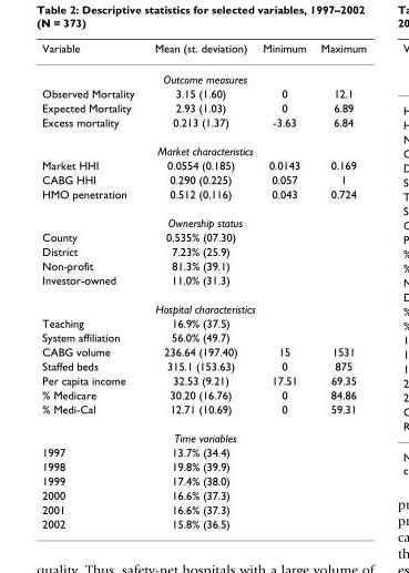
<table><thead><tr><td>Variable</td><td>Mean (st. deviation)</td><td>Minimum</td><td>Maximum</td></tr></thead><tbody><tr><td colspan="4">Outcome measures</td></tr><tr><td>Observed Mortality</td><td>3.15 (1.60)</td><td>0</td><td>12.1</td></tr><tr><td>Expected Mortality</td><td>2.93 (1.03)</td><td>0</td><td>6.89</td></tr><tr><td>Excess mortality</td><td>0.213 (1.37)</td><td>-3.63</td><td>6.84</td></tr><tr><td colspan="4">Market characteristics</td></tr><tr><td>Market HHI</td><td>0.0554 (0.185)</td><td>0.0143</td><td>0.169</td></tr><tr><td>CABG HHI</td><td>0.290 (0.225)</td><td>0.057</td><td>1</td></tr><tr><td>HMO penetration</td><td>0.512 (0.116)</td><td>0.043</td><td>0.724</td></tr><tr><td colspan="4">Ownership status</td></tr><tr><td>County</td><td>0.535% (07.30)</td><td></td><td></td></tr><tr><td>District</td><td>7.23% (25.9)</td><td></td><td></td></tr><tr><td>Non-profit</td><td>81.3% (39.1)</td><td></td><td></td></tr><tr><td>Investor-owned</td><td>11.0% (31.3)</td><td></td><td></td></tr><tr><td colspan="4">Hospital characteristics</td></tr><tr><td>Teaching</td><td>16.9% (37.5)</td><td></td><td></td></tr><tr><td>System affiliation</td><td>56.0% (49.7)</td><td></td><td></td></tr><tr><td>CABG volume</td><td>236.64 (197.40)</td><td>15</td><td>1531</td></tr><tr><td>Staffed beds</td><td>315.1 (153.63)</td><td>0</td><td>875</td></tr><tr><td>Per capita income</td><td>32.53 (9.21)</td><td>17.51</td><td>69.35</td></tr><tr><td>% Medicare</td><td>30.20 (16.76)</td><td>0</td><td>84.86</td></tr><tr><td>% Medi-Cal</td><td>12.71 (10.69)</td><td>0</td><td>59.31</td></tr><tr><td colspan="4">Time variables</td></tr><tr><td>1997</td><td>13.7% (34.4)</td><td></td><td></td></tr><tr><td>1998</td><td>19.8% (39.9)</td><td></td><td></td></tr><tr><td>1999</td><td>17.4% (38.0)</td><td></td><td></td></tr><tr><td>2000</td><td>16.6% (37.3)</td><td></td><td></td></tr><tr><td>2001</td><td>16.6% (37.3)</td><td></td><td></td></tr><tr><td>2002</td><td>15.8% (36.5)</td><td></td><td></td></tr></tbody></table>